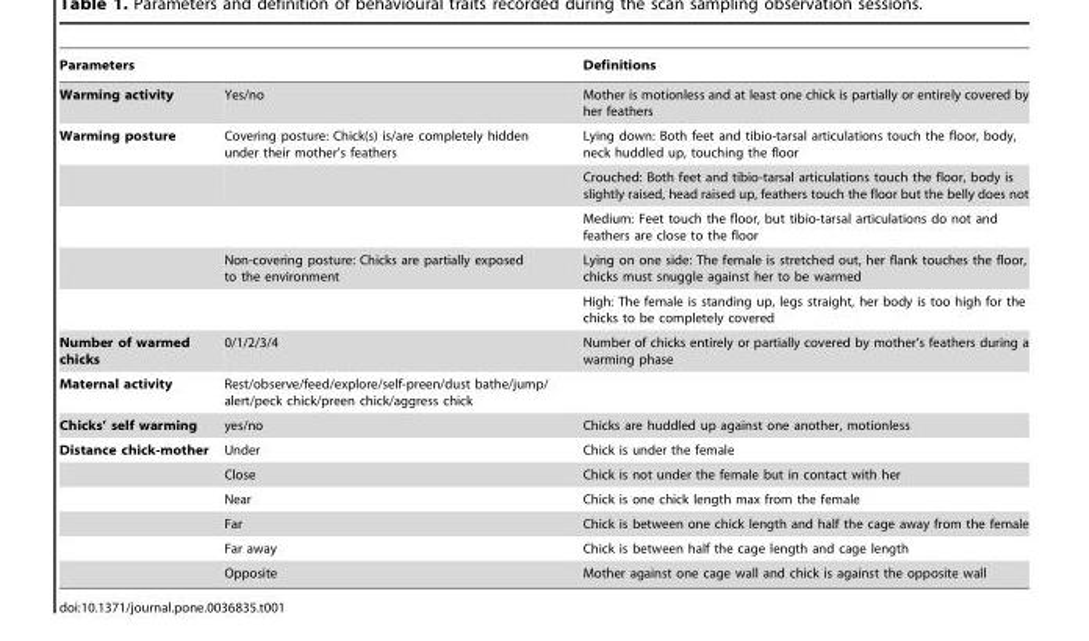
<table><thead><tr><td colspan="2">Parameters</td><td rowspan="2">Definitions Mother is motionless and at least one chick is partially or entirely covered by her feathers</td></tr><tr><td>Warming activity</td><td>Yes/no</td></tr></thead><tbody><tr><td rowspan="5">Warming posture</td><td>Covering posture: Chick(s) is/are completely hidden under their mother’s feathers</td><td>Lying down: Both feet and tibio-tarsal articulations touch the floor, body, neck huddled up, touching the floor</td></tr><tr><td></td><td>Crouched: Both feet and tibio-tarsal articulations touch the floor, body is slightly raised, head raised up, feathers touch the floor but the belly does not</td></tr><tr><td></td><td>Medium: Feet touch the floor, but tibio-tarsal articulations do not and feathers are close to the floor</td></tr><tr><td>Non-covering posture: Chicks are partially exposed to the environment</td><td>Lying on one side: The female is stretched out, her flank touches the floor, chicks must snuggle against her to be warmed</td></tr><tr><td></td><td>High: The female is standing up, legs straight, her body is too high for the chicks to be completely covered</td></tr><tr><td>Number of warmed chicks</td><td>0/1/2/3/4</td><td>Number of chicks entirely or partially covered by mother’s feathers during a warming phase</td></tr><tr><td>Maternal activity</td><td>Rest/observe/feed/explore/self-preen/dust bathe/jump/ alert/peck chick/preen chick/aggress chick</td><td></td></tr><tr><td>Chicks’ self warming</td><td>yes/no</td><td>Chicks are huddled up against one another, motionless</td></tr><tr><td rowspan="6">Distance chick-mother</td><td>Under</td><td>Chick is under the female</td></tr><tr><td>Close</td><td>Chick is not under the female but in contact with her</td></tr><tr><td>Near</td><td>Chick is one chick length max from the female</td></tr><tr><td>Far</td><td>Chick is between one chick length and half the cage away from the female</td></tr><tr><td>Far away</td><td>Chick is between half the cage length and cage length</td></tr><tr><td>Opposite</td><td>Mother against one cage wall and chick is against the opposite wall</td></tr></tbody></table>